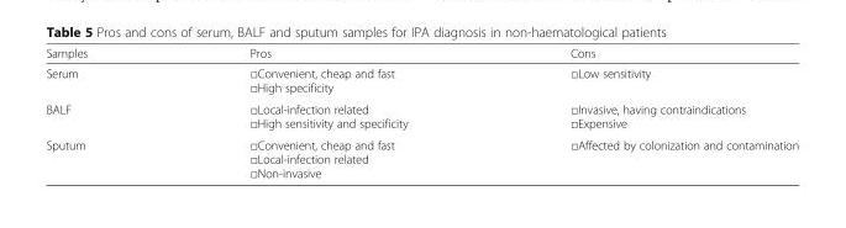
<table><thead><tr><td>Samples</td><td>Pros</td><td>Cons</td></tr></thead><tbody><tr><td>Serum</td><td>□Convenient, cheap and fast □High specificity</td><td>□Low sensitivity</td></tr><tr><td>BALF</td><td>□Local-infection related □High sensitivity and specificity</td><td>□Invasive, having contraindications □Expensive</td></tr><tr><td>Sputum</td><td>□Convenient, cheap and fast □Local-infection related □Non-invasive</td><td>□Affected by colonization and contamination</td></tr></tbody></table>